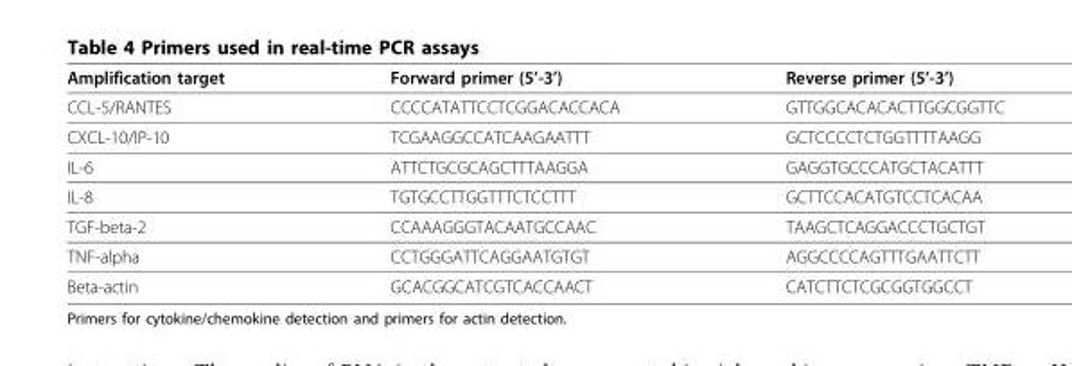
<table><thead><tr><td>Amplification target</td><td>Forward primer (5’-3’)</td><td>Reverse primer (5’-3’)</td></tr></thead><tbody><tr><td>CCL-5/RANTES</td><td>CCCCATATTCCTCGGACACCACA</td><td>GTTGGCACACACTTGGCGGTTC</td></tr><tr><td>CXCL-10/IP-10</td><td>TCGAAGGCCATCAAGAATTT</td><td>GCTCCCCTCTGGTTTTAAGG</td></tr><tr><td>IL-6</td><td>ATTCTGCGCAGCTTTAAGGA</td><td>GAGGTGCCCATGCTACATTT</td></tr><tr><td>IL-8</td><td>TGTGCCTTGGTTTCTCCTTT</td><td>GCTTCCACATGTCCTCACAA</td></tr><tr><td>TGF-beta-2</td><td>CCAAAGGGTACAATGCCAAC</td><td>TAAGCTCAGGACCCTGCTGT</td></tr><tr><td>TNF-alpha</td><td>CCTGGGATTCAGGAATGTGT</td><td>AGGCCCCAGTTTGAATTCTT</td></tr><tr><td>Beta-actin</td><td>GCACGGCATCGTCACCAACT</td><td>CATCTTCTCGCGGTGGCCT</td></tr></tbody></table>